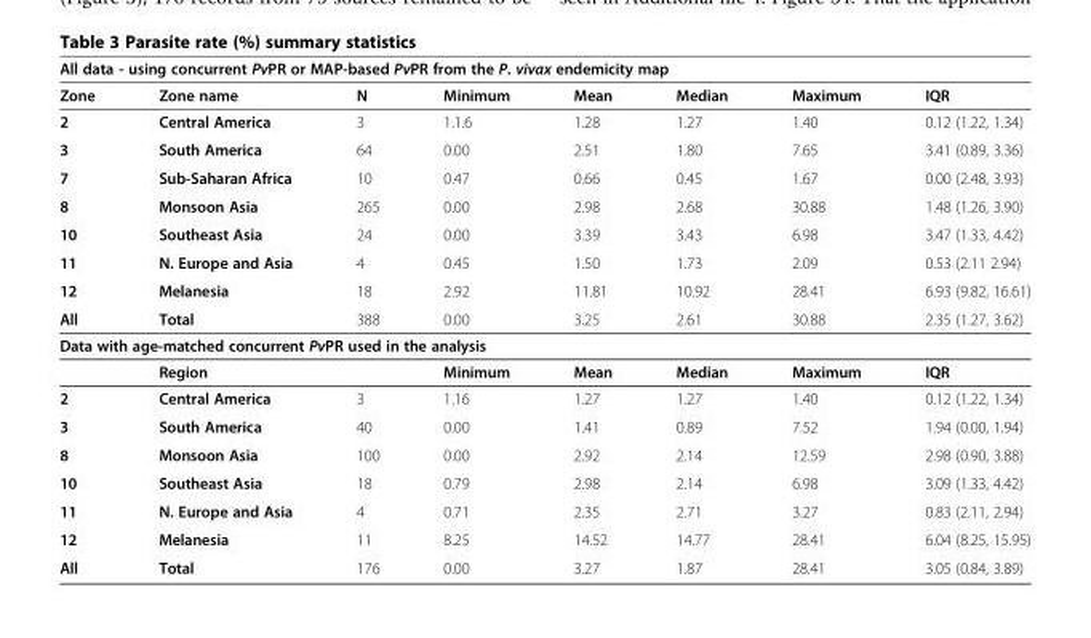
<table><tbody><tr><td colspan="8">All data - using concurrent PvPR or MAP-based PvPR from the P. vivax endemicity map</td></tr><tr><td>Zone</td><td>Zone name</td><td>N</td><td>Minimum</td><td>Mean</td><td>Median</td><td>Maximum</td><td>IQR</td></tr><tr><td>2</td><td>Central America</td><td>3</td><td>1.1.6</td><td>1.28</td><td>1.27</td><td>1.40</td><td>0.12 (1.22, 1.34)</td></tr><tr><td>3</td><td>South America</td><td>64</td><td>0.00</td><td>2.51</td><td>1.80</td><td>7.65</td><td>3.41 (0.89, 3.36)</td></tr><tr><td>7</td><td>Sub-Saharan Africa</td><td>10</td><td>0.47</td><td>0.66</td><td>0.45</td><td>1.67</td><td>0.00 (2.48, 3.93)</td></tr><tr><td>8</td><td>Monsoon Asia</td><td>265</td><td>0.00</td><td>2.98</td><td>2.68</td><td>30.88</td><td>1.48 (1.26, 3.90)</td></tr><tr><td>10</td><td>Southeast Asia</td><td>24</td><td>0.00</td><td>3.39</td><td>3.43</td><td>6.98</td><td>3.47 (1.33, 4.42)</td></tr><tr><td>11</td><td>N. Europe and Asia</td><td>4</td><td>0.45</td><td>1.50</td><td>1.73</td><td>2.09</td><td>0.53 (2.11 2.94)</td></tr><tr><td>12</td><td>Melanesia</td><td>18</td><td>2.92</td><td>11.81</td><td>10.92</td><td>28.41</td><td>6.93 (9.82, 16.61)</td></tr><tr><td>All</td><td>Total</td><td>388</td><td>0.00</td><td>3.25</td><td>2.61</td><td>30.88</td><td>2.35 (1.27, 3.62)</td></tr><tr><td colspan="8">Data with age-matched concurrent PvPR used in the analysis</td></tr><tr><td></td><td>Region</td><td></td><td>Minimum</td><td>Mean</td><td>Median</td><td>Maximum</td><td>IQR</td></tr><tr><td>2</td><td>Central America</td><td>3</td><td>1.16</td><td>1.27</td><td>1.27</td><td>1.40</td><td>0.12 (1.22, 1.34)</td></tr><tr><td>3</td><td>South America</td><td>40</td><td>0.00</td><td>1.41</td><td>0.89</td><td>7.52</td><td>1.94 (0.00, 1.94)</td></tr><tr><td>8</td><td>Monsoon Asia</td><td>100</td><td>0.00</td><td>2.92</td><td>2.14</td><td>12.59</td><td>2.98 (0.90, 3.88)</td></tr><tr><td>10</td><td>Southeast Asia</td><td>18</td><td>0.79</td><td>2.98</td><td>2.14</td><td>6.98</td><td>3.09 (1.33, 4.42)</td></tr><tr><td>11</td><td>N. Europe and Asia</td><td>4</td><td>0.71</td><td>2.35</td><td>2.71</td><td>3.27</td><td>0.83 (2.11, 2.94)</td></tr><tr><td>12</td><td>Melanesia</td><td>11</td><td>8.25</td><td>14.52</td><td>14.77</td><td>28.41</td><td>6.04 (8.25, 15.95)</td></tr><tr><td>All</td><td>Total</td><td>176</td><td>0.00</td><td>3.27</td><td>1.87</td><td>28.41</td><td>3.05 (0.84, 3.89)</td></tr></tbody></table>